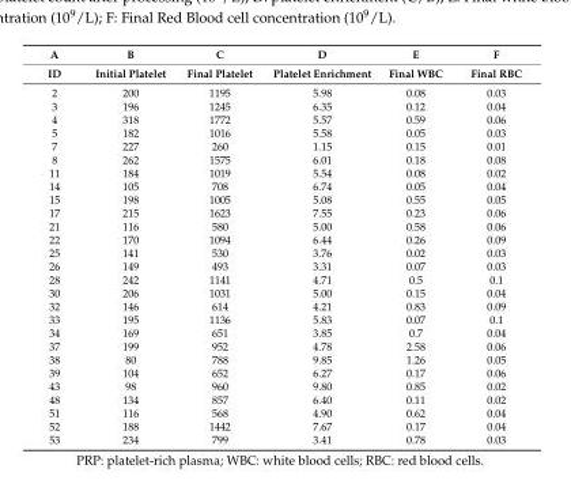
<table><thead><tr><td rowspan="2">A ID</td><td rowspan="2">B Initial Platelet</td><td rowspan="2">C Final Platelet</td><td rowspan="2">D Platelet Enrichment</td><td rowspan="2">E Final WBC</td><td rowspan="2">F Final RBC</td></tr><tr></tr></thead><tbody><tr><td>2</td><td>200</td><td>1195</td><td>5.98</td><td>0.08</td><td>0.03</td></tr><tr><td>3</td><td>196</td><td>1245</td><td>6.35</td><td>0.12</td><td>0.04</td></tr><tr><td>4</td><td>318</td><td>1772</td><td>5.57</td><td>0.59</td><td>0.06</td></tr><tr><td>5</td><td>182</td><td>1016</td><td>5.58</td><td>0.05</td><td>0.03</td></tr><tr><td>7</td><td>227</td><td>260</td><td>1.15</td><td>0.15</td><td>0.01</td></tr><tr><td>8</td><td>262</td><td>1575</td><td>6.01</td><td>0.18</td><td>0.08</td></tr><tr><td>11</td><td>184</td><td>1019</td><td>5.54</td><td>0.08</td><td>0.02</td></tr><tr><td>14</td><td>105</td><td>708</td><td>6.74</td><td>0.05</td><td>0.04</td></tr><tr><td>15</td><td>198</td><td>1005</td><td>5.08</td><td>0.55</td><td>0.05</td></tr><tr><td>17</td><td>215</td><td>1623</td><td>7.55</td><td>0.23</td><td>0.06</td></tr><tr><td>21</td><td>116</td><td>580</td><td>5.00</td><td>0.58</td><td>0.06</td></tr><tr><td>22</td><td>170</td><td>1094</td><td>6.44</td><td>0.26</td><td>0.09</td></tr><tr><td>25</td><td>141</td><td>530</td><td>3.76</td><td>0.02</td><td>0.03</td></tr><tr><td>26</td><td>149</td><td>493</td><td>3.31</td><td>0.07</td><td>0.03</td></tr><tr><td>28</td><td>242</td><td>1141</td><td>4.71</td><td>0.5</td><td>0.1</td></tr><tr><td>30</td><td>206</td><td>1031</td><td>5.00</td><td>0.15</td><td>0.04</td></tr><tr><td>32</td><td>146</td><td>614</td><td>4.21</td><td>0.83</td><td>0.09</td></tr><tr><td>33</td><td>195</td><td>1136</td><td>5.83</td><td>0.07</td><td>0.1</td></tr><tr><td>34</td><td>169</td><td>651</td><td>3.85</td><td>0.7</td><td>0.04</td></tr><tr><td>37</td><td>199</td><td>952</td><td>4.78</td><td>2.58</td><td>0.06</td></tr><tr><td>38</td><td>80</td><td>788</td><td>9.85</td><td>1.26</td><td>0.05</td></tr><tr><td>39</td><td>104</td><td>652</td><td>6.27</td><td>0.17</td><td>0.06</td></tr><tr><td>43</td><td>98</td><td>960</td><td>9.80</td><td>0.85</td><td>0.02</td></tr><tr><td>48</td><td>134</td><td>857</td><td>6.40</td><td>0.11</td><td>0.02</td></tr><tr><td>51</td><td>116</td><td>568</td><td>4.90</td><td>0.62</td><td>0.04</td></tr><tr><td>52</td><td>188</td><td>1442</td><td>7.67</td><td>0.17</td><td>0.04</td></tr><tr><td>53</td><td>234</td><td>799</td><td>3.41</td><td>0.78</td><td>0.03</td></tr></tbody></table>